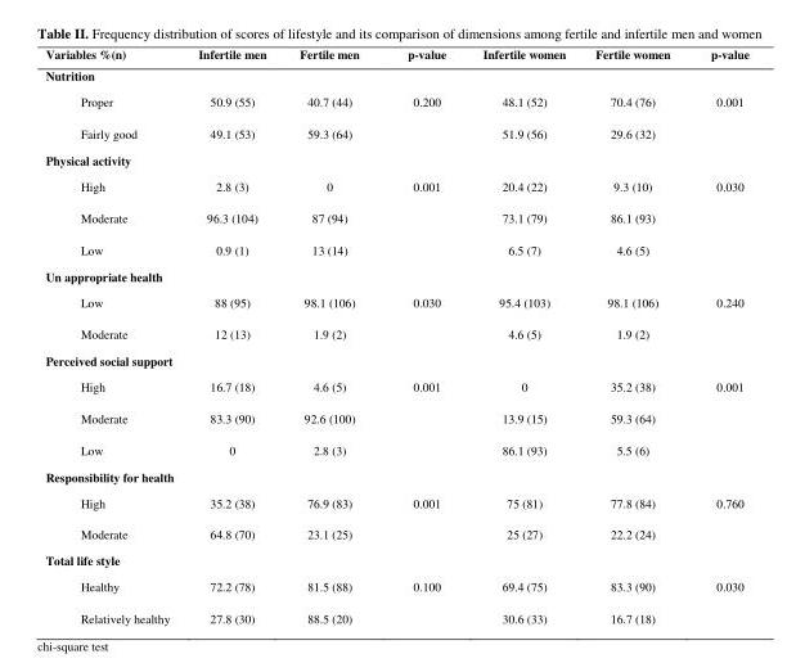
<table><thead><tr><td>Variables %(n)</td><td>Infertile men</td><td>Fertile men</td><td>p-value</td><td>Infertile women</td><td>Fertile women</td><td>p-value</td></tr></thead><tbody><tr><td colspan="7">Nutrition</td></tr><tr><td>Proper</td><td>50.9 (55)</td><td>40.7 (44)</td><td>0.200</td><td>48.1 (52)</td><td>70.4 (76)</td><td>0.001</td></tr><tr><td>Fairly good</td><td>49.1 (53)</td><td>59.3 (64)</td><td></td><td>51.9 (56)</td><td>29.6 (32)</td><td></td></tr><tr><td colspan="7">Physical activity</td></tr><tr><td>High</td><td>2.8 (3)</td><td>0</td><td>0.001</td><td>20.4 (22)</td><td>9.3 (10)</td><td>0.030</td></tr><tr><td>Moderate</td><td>96.3 (104)</td><td>87 (94)</td><td></td><td>73.1 (79)</td><td>86.1 (93)</td><td></td></tr><tr><td>Low</td><td>0.9 (1)</td><td>13 (14)</td><td></td><td>6.5 (7)</td><td>4.6 (5)</td><td></td></tr><tr><td colspan="7">Un appropriate health</td></tr><tr><td>Low</td><td>88 (95)</td><td>98.1 (106)</td><td>0.030</td><td>95.4 (103)</td><td>98.1 (106)</td><td>0.240</td></tr><tr><td>Moderate</td><td>12 (13)</td><td>1.9 (2)</td><td></td><td>4.6 (5)</td><td>1.9 (2)</td><td></td></tr><tr><td colspan="7">Perceived social support</td></tr><tr><td>High</td><td>16.7 (18)</td><td>4.6 (5)</td><td>0.001</td><td>0</td><td>35.2 (38)</td><td>0.001</td></tr><tr><td>Moderate</td><td>83.3 (90)</td><td>92.6 (100)</td><td></td><td>13.9 (15)</td><td>59.3 (64)</td><td></td></tr><tr><td>Low</td><td>0</td><td>2.8 (3)</td><td></td><td>86.1 (93)</td><td>5.5 (6)</td><td></td></tr><tr><td colspan="7">Responsibility for health</td></tr><tr><td>High</td><td>35.2 (38)</td><td>76.9 (83)</td><td>0.001</td><td>75 (81)</td><td>77.8 (84)</td><td>0.760</td></tr><tr><td>Moderate</td><td>64.8 (70)</td><td>23.1 (25)</td><td></td><td>25 (27)</td><td>22.2 (24)</td><td></td></tr><tr><td colspan="7">Total life style</td></tr><tr><td>Healthy</td><td>72.2 (78)</td><td>81.5 (88)</td><td>0.100</td><td>69.4 (75)</td><td>83.3 (90)</td><td>0.030</td></tr><tr><td>Relatively healthy</td><td>27.8 (30)</td><td>88.5 (20)</td><td></td><td>30.6 (33)</td><td>16.7 (18)</td><td></td></tr></tbody></table>